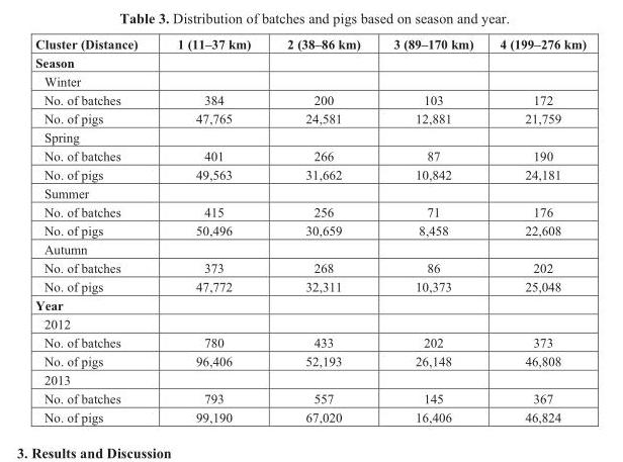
<table><thead><tr><td>Cluster (Distance)</td><td>1 (11–37 km)</td><td>2 (38–86 km)</td><td>3 (89–170 km)</td><td>4 (199–276 km)</td></tr></thead><tbody><tr><td colspan="5">Season</td></tr><tr><td colspan="5">Winter</td></tr><tr><td>No. of batches</td><td>384</td><td>200</td><td>103</td><td>172</td></tr><tr><td>No. of pigs</td><td>47,765</td><td>24,581</td><td>12,881</td><td>21,759</td></tr><tr><td colspan="5">Spring</td></tr><tr><td>No. of batches</td><td>401</td><td>266</td><td>87</td><td>190</td></tr><tr><td>No. of pigs</td><td>49,563</td><td>31,662</td><td>10,842</td><td>24,181</td></tr><tr><td colspan="5">Summer</td></tr><tr><td>No. of batches</td><td>415</td><td>256</td><td>71</td><td>176</td></tr><tr><td>No. of pigs</td><td>50,496</td><td>30,659</td><td>8,458</td><td>22,608</td></tr><tr><td colspan="5">Autumn</td></tr><tr><td>No. of batches</td><td>373</td><td>268</td><td>86</td><td>202</td></tr><tr><td>No. of pigs</td><td>47,772</td><td>32,311</td><td>10,373</td><td>25,048</td></tr><tr><td colspan="5">Year</td></tr><tr><td colspan="5">2012</td></tr><tr><td>No. of batches</td><td>780</td><td>433</td><td>202</td><td>373</td></tr><tr><td>No. of pigs</td><td>96,406</td><td>52,193</td><td>26,148</td><td>46,808</td></tr><tr><td colspan="5">2013</td></tr><tr><td>No. of batches</td><td>793</td><td>557</td><td>145</td><td>367</td></tr><tr><td>No. of pigs</td><td>99,190</td><td>67,020</td><td>16,406</td><td>46,824</td></tr></tbody></table>